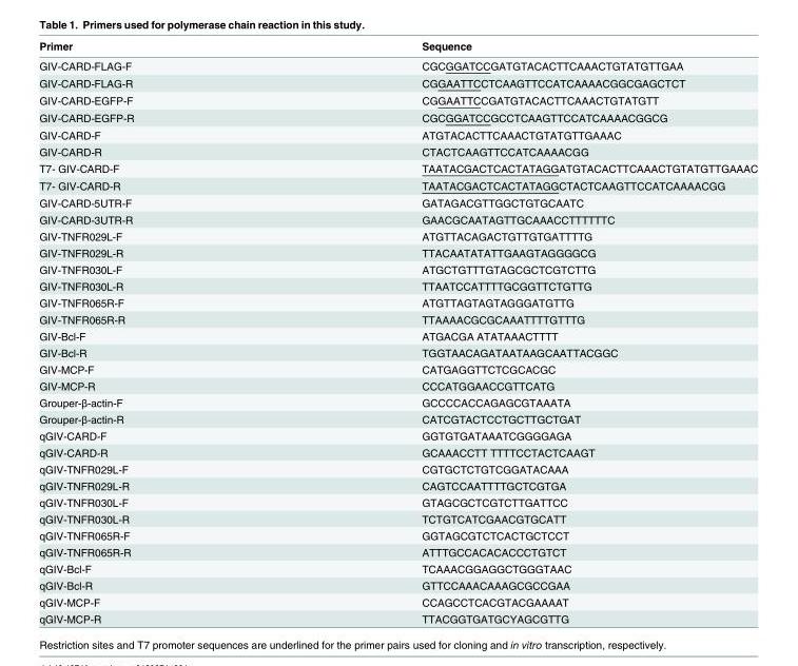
<table><thead><tr><td>Primer</td><td>Sequence</td></tr></thead><tbody><tr><td>GIV-CARD-FLAG-F</td><td>CGCGGATCCGATGTACACTTCAAACTGTATGTTGAA</td></tr><tr><td>GIV-CARD-FLAG-R</td><td>CGGAATTCCTCAAGTTCCATCAAAACGGCGAGCTCT</td></tr><tr><td>GIV-CARD-EGFP-F</td><td>CGGAATTCCGATGTACACTTCAAACTGTATGTT</td></tr><tr><td>GIV-CARD-EGFP-R</td><td>CGCGGATCCGCCTCAAGTTCCATCAAAACGGCG</td></tr><tr><td>GIV-CARD-F</td><td>ATGTACACTTCAAACTGTATGTTGAAAC</td></tr><tr><td>GIV-CARD-R</td><td>CTACTCAAGTTCCATCAAAACGG</td></tr><tr><td>T7- GIV-CARD-F</td><td>TAATACGACTCACTATAGGATGTACACTTCAAACTGTATGTTGAAAC</td></tr><tr><td>T7- GIV-CARD-R</td><td>TAATACGACTCACTATAGGCTACTCAAGTTCCATCAAAACGG</td></tr><tr><td>GIV-CARD-5UTR-F</td><td>GATAGACGTTGGCTGTGCAATC</td></tr><tr><td>GIV-CARD-3UTR-R</td><td>GAACGCAATAGTTGCAAACCTTTTTTC</td></tr><tr><td>GIV-TNFR029L-F</td><td>ATGTTACAGACTGTTGTGATTTTG</td></tr><tr><td>GIV-TNFR029L-R</td><td>TTACAATATATTGAAGTAGGGGCG</td></tr><tr><td>GIV-TNFR030L-F</td><td>ATGCTGTTTGTAGCGCTCGTCTTG</td></tr><tr><td>GIV-TNFR030L-R</td><td>TTAATCCATTTTGCGGTTCTGTTG</td></tr><tr><td>GIV-TNFR065R-F</td><td>ATGTTAGTAGTAGGGATGTTG</td></tr><tr><td>GIV-TNFR065R-R</td><td>TTAAAACGCGCAAATTTTGTTTG</td></tr><tr><td>GIV-Bcl-F</td><td>ATGACGA ATATAAACTTTT</td></tr><tr><td>GIV-Bcl-R</td><td>TGGTAACAGATAATAAGCAATTACGGC</td></tr><tr><td>GIV-MCP-F</td><td>CATGAGGTTCTCGCACGC</td></tr><tr><td>GIV-MCP-R</td><td>CCCATGGAACCGTTCATG</td></tr><tr><td>Grouper-β-actin-F</td><td>GCCCCACCAGAGCGTAAATA</td></tr><tr><td>Grouper-β-actin-R</td><td>CATCGTACTCCTGCTTGCTGAT</td></tr><tr><td>qGIV-CARD-F</td><td>GGTGTGATAAATCGGGGAGA</td></tr><tr><td>qGIV-CARD-R</td><td>GCAAACCTT TTTTCCTACTCAAGT</td></tr><tr><td>qGIV-TNFR029L-F</td><td>CGTGCTCTGTCGGATACAAA</td></tr><tr><td>qGIV-TNFR029L-R</td><td>CAGTCCAATTTTGCTCGTGA</td></tr><tr><td>qGIV-TNFR030L-F</td><td>GTAGCGCTCGTCTTGATTCC</td></tr><tr><td>qGIV-TNFR030L-R</td><td>TCTGTCATCGAACGTGCATT</td></tr><tr><td>qGIV-TNFR065R-F</td><td>GGTAGCGTCTCACTGCTCCT</td></tr><tr><td>qGIV-TNFR065R-R</td><td>ATTTGCCACACACCCTGTCT</td></tr><tr><td>qGIV-Bcl-F</td><td>TCAAACGGAGGCTGGGTAAC</td></tr><tr><td>qGIV-Bcl-R</td><td>GTTCCAAACAAAGCGCCGAA</td></tr><tr><td>qGIV-MCP-F</td><td>CCAGCCTCACGTACGAAAAT</td></tr><tr><td>qGIV-MCP-R</td><td>TTACGGTGATGCYAGCGTTG</td></tr></tbody></table>